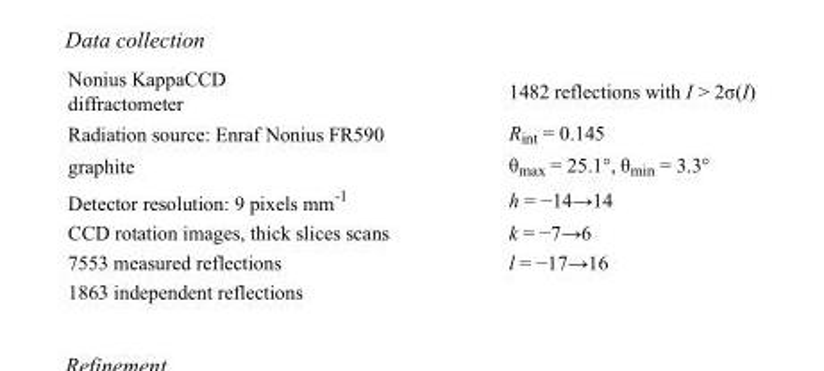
<table><tbody><tr><td>Nonius KappaCCD diffractometer</td><td>1482 reflections with I &gt; 2σ(I)</td></tr><tr><td>Radiation source: Enraf Nonius FR590</td><td>R<sub>int</sub> = 0.145</td></tr><tr><td>graphite</td><td>θ<sub>max</sub> = 25.1°, θ<sub>min</sub> = 3.3°</td></tr><tr><td>Detector resolution: 9 pixels mm<sup>-1</sup></td><td>h = −14→14</td></tr><tr><td>CCD rotation images, thick slices scans</td><td>k = −7→6</td></tr><tr><td>7553 measured reflections</td><td>l = −17→16</td></tr><tr><td>1863 independent reflections</td><td></td></tr></tbody></table>